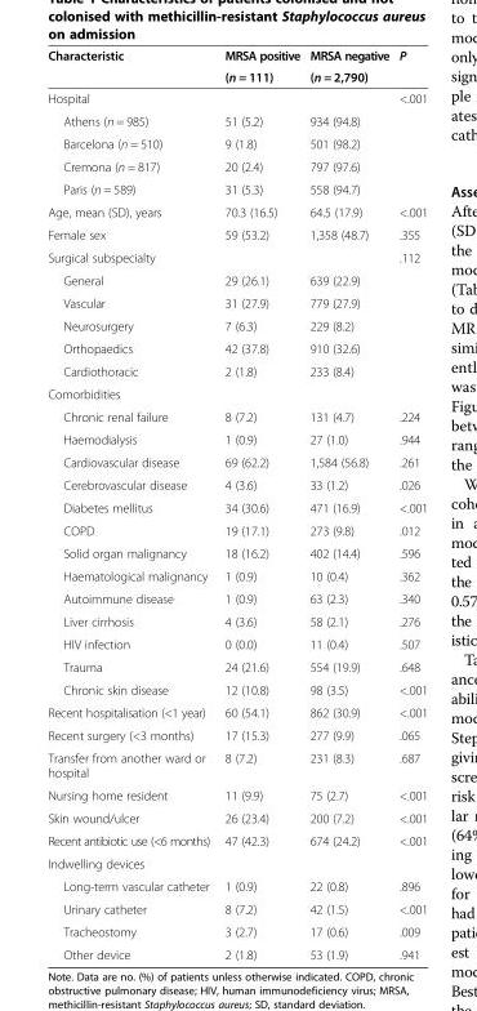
<table><thead><tr><td rowspan="2">Characteristic</td><td rowspan="2">MRSA positive (n = 111)</td><td rowspan="2">MRSA negative (n = 2,790)</td><td rowspan="2">P</td></tr><tr></tr></thead><tbody><tr><td>Hospital</td><td></td><td></td><td>&lt;.001</td></tr><tr><td>Athens (n = 985)</td><td>51 (5.2)</td><td>934 (94.8)</td><td></td></tr><tr><td>Barcelona (n = 510)</td><td>9 (1.8)</td><td>501 (98.2)</td><td></td></tr><tr><td>Cremona (n = 817)</td><td>20 (2.4)</td><td>797 (97.6)</td><td></td></tr><tr><td>Paris (n = 589)</td><td>31 (5.3)</td><td>558 (94.7)</td><td></td></tr><tr><td>Age, mean (SD), years</td><td>70.3 (16.5)</td><td>64.5 (17.9)</td><td>&lt;.001</td></tr><tr><td>Female sex</td><td>59 (53.2)</td><td>1,358 (48.7)</td><td>.355</td></tr><tr><td>Surgical subspecialty</td><td></td><td></td><td>.112</td></tr><tr><td>General</td><td>29 (26.1)</td><td>639 (22.9)</td><td></td></tr><tr><td>Vascular</td><td>31 (27.9)</td><td>779 (27.9)</td><td></td></tr><tr><td>Neurosurgery</td><td>7 (6.3)</td><td>229 (8.2)</td><td></td></tr><tr><td>Orthopaedics</td><td>42 (37.8)</td><td>910 (32.6)</td><td></td></tr><tr><td>Cardiothoracic</td><td>2 (1.8)</td><td>233 (8.4)</td><td></td></tr><tr><td colspan="4">Comorbidities</td></tr><tr><td>Chronic renal failure</td><td>8 (7.2)</td><td>131 (4.7)</td><td>.224</td></tr><tr><td>Haemodialysis</td><td>1 (0.9)</td><td>27 (1.0)</td><td>.944</td></tr><tr><td>Cardiovascular disease</td><td>69 (62.2)</td><td>1,584 (56.8)</td><td>.261</td></tr><tr><td>Cerebrovascular disease</td><td>4 (3.6)</td><td>33 (1.2)</td><td>.026</td></tr><tr><td>Diabetes mellitus</td><td>34 (30.6)</td><td>471 (16.9)</td><td>&lt;.001</td></tr><tr><td>COPD</td><td>19 (17.1)</td><td>273 (9.8)</td><td>.012</td></tr><tr><td>Solid organ malignancy</td><td>18 (16.2)</td><td>402 (14.4)</td><td>.596</td></tr><tr><td>Haematological malignancy</td><td>1 (0.9)</td><td>10 (0.4)</td><td>.362</td></tr><tr><td>Autoimmune disease</td><td>1 (0.9)</td><td>63 (2.3)</td><td>.340</td></tr><tr><td>Liver cirrhosis</td><td>4 (3.6)</td><td>58 (2.1)</td><td>.276</td></tr><tr><td>HIV infection</td><td>0 (0.0)</td><td>11 (0.4)</td><td>.507</td></tr><tr><td>Trauma</td><td>24 (21.6)</td><td>554 (19.9)</td><td>.648</td></tr><tr><td>Chronic skin disease</td><td>12 (10.8)</td><td>98 (3.5)</td><td>&lt;.001</td></tr><tr><td>Recent hospitalisation (&lt;1 year)</td><td>60 (54.1)</td><td>862 (30.9)</td><td>&lt;.001</td></tr><tr><td>Recent surgery (&lt;3 months)</td><td>17 (15.3)</td><td>277 (9.9)</td><td>.065</td></tr><tr><td>Transfer from another ward or hospital</td><td>8 (7.2)</td><td>231 (8.3)</td><td>.687</td></tr><tr><td>Nursing home resident</td><td>11 (9.9)</td><td>75 (2.7)</td><td>&lt;.001</td></tr><tr><td>Skin wound/ulcer</td><td>26 (23.4)</td><td>200 (7.2)</td><td>&lt;.001</td></tr><tr><td>Recent antibiotic use (&lt;6 months)</td><td>47 (42.3)</td><td>674 (24.2)</td><td>&lt;.001</td></tr><tr><td colspan="4">Indwelling devices</td></tr><tr><td>Long-term vascular catheter</td><td>1 (0.9)</td><td>22 (0.8)</td><td>.896</td></tr><tr><td>Urinary catheter</td><td>8 (7.2)</td><td>42 (1.5)</td><td>&lt;.001</td></tr><tr><td>Tracheostomy</td><td>3 (2.7)</td><td>17 (0.6)</td><td>.009</td></tr><tr><td>Other device</td><td>2 (1.8)</td><td>53 (1.9)</td><td>.941</td></tr></tbody></table>